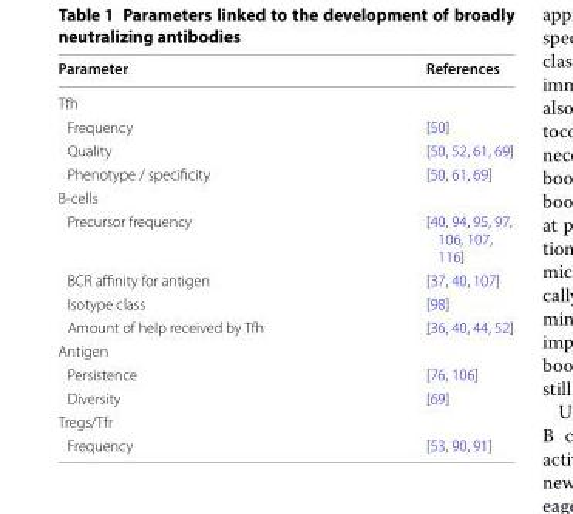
<table><thead><tr><td>Parameter</td><td>References</td></tr></thead><tbody><tr><td colspan="2">Tfh</td></tr><tr><td>Frequency</td><td>[50]</td></tr><tr><td>Quality</td><td>[50, 52, 61, 69]</td></tr><tr><td>Phenotype / specificity</td><td>[50, 61, 69]</td></tr><tr><td colspan="2">B-cells</td></tr><tr><td>Precursor frequency</td><td>[40, 94, 95, 97, 106, 107, 116]</td></tr><tr><td>BCR affinity for antigen</td><td>[37, 40, 107]</td></tr><tr><td>Isotype class</td><td>[98]</td></tr><tr><td>Amount of help received by Tfh</td><td>[36, 40, 44, 52]</td></tr><tr><td colspan="2">Antigen</td></tr><tr><td>Persistence</td><td>[76, 106]</td></tr><tr><td>Diversity</td><td>[69]</td></tr><tr><td colspan="2">Tregs/Tfr</td></tr><tr><td>Frequency</td><td>[53, 90, 91]</td></tr></tbody></table>